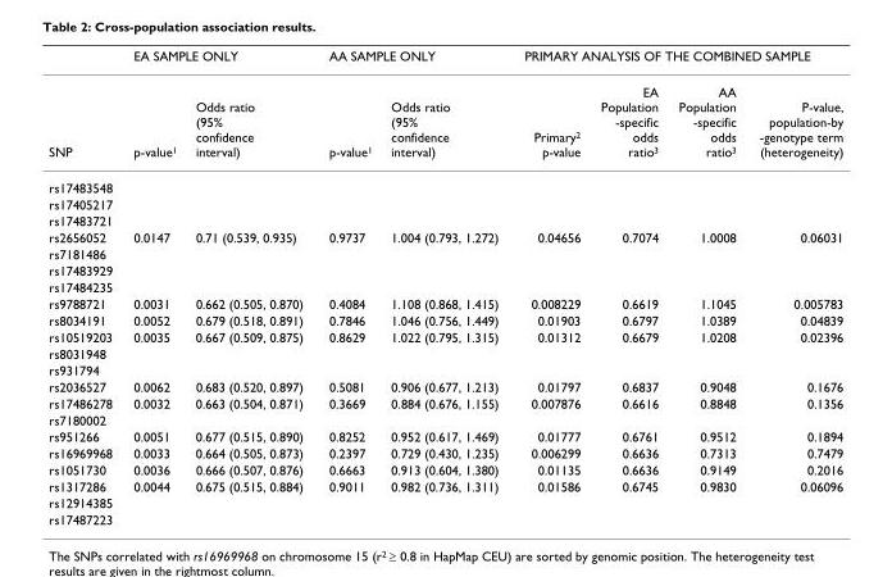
<table><thead><tr><td rowspan="2">SNP</td><td colspan="2">EA SAMPLE ONLY</td><td colspan="2">AA SAMPLE ONLY</td><td colspan="4">PRIMARY ANALYSIS OF THE COMBINED SAMPLE</td></tr><tr><td>p-value<sup>1</sup></td><td>Odds ratio (95% confidence interval)</td><td>p-value<sup>1</sup></td><td>Odds ratio (95% confidence interval)</td><td>Primary<sup>2</sup> p-value</td><td>EA Population -specific odds ratio<sup>3</sup></td><td>AA Population -specific odds ratio<sup>3</sup></td><td>P-value, population-by -genotype term (heterogeneity)</td></tr></thead><tbody><tr><td colspan="9">rs17483548</td></tr><tr><td colspan="9">rs17405217</td></tr><tr><td colspan="9">rs17483721</td></tr><tr><td>rs2656052</td><td>0.0147</td><td>0.71 (0.539, 0.935)</td><td>0.9737</td><td>1.004 (0.793, 1.272)</td><td>0.04656</td><td>0.7074</td><td>1.0008</td><td>0.06031</td></tr><tr><td colspan="9">rs7181486</td></tr><tr><td colspan="9">rs17483929</td></tr><tr><td colspan="9">rs17484235</td></tr><tr><td>rs9788721</td><td>0.0031</td><td>0.662 (0.505, 0.870)</td><td>0.4084</td><td>1.108 (0.868, 1.415)</td><td>0.008229</td><td>0.6619</td><td>1.1045</td><td>0.005783</td></tr><tr><td>rs8034191</td><td>0.0052</td><td>0.679 (0.518, 0.891)</td><td>0.7846</td><td>1.046 (0.756, 1.449)</td><td>0.01903</td><td>0.6797</td><td>1.0389</td><td>0.04839</td></tr><tr><td>rs10519203</td><td>0.0035</td><td>0.667 (0.509, 0.875)</td><td>0.8629</td><td>1.022 (0.795, 1.315)</td><td>0.01312</td><td>0.6679</td><td>1.0208</td><td>0.02396</td></tr><tr><td colspan="9">rs8031948</td></tr><tr><td colspan="9">rs931794</td></tr><tr><td>rs2036527</td><td>0.0062</td><td>0.683 (0.520, 0.897)</td><td>0.5081</td><td>0.906 (0.677, 1.213)</td><td>0.01797</td><td>0.6837</td><td>0.9048</td><td>0.1676</td></tr><tr><td>rs17486278</td><td>0.0032</td><td>0.663 (0.504, 0.871)</td><td>0.3669</td><td>0.884 (0.676, 1.155)</td><td>0.007876</td><td>0.6616</td><td>0.8848</td><td>0.1356</td></tr><tr><td colspan="9">rs7180002</td></tr><tr><td>rs951266</td><td>0.0051</td><td>0.677 (0.515, 0.890)</td><td>0.8252</td><td>0.952 (0.617, 1.469)</td><td>0.01777</td><td>0.6761</td><td>0.9512</td><td>0.1894</td></tr><tr><td>rs16969968</td><td>0.0033</td><td>0.664 (0.505, 0.873)</td><td>0.2397</td><td>0.729 (0.430, 1.235)</td><td>0.006299</td><td>0.6636</td><td>0.7313</td><td>0.7479</td></tr><tr><td>rs1051730</td><td>0.0036</td><td>0.666 (0.507, 0.876)</td><td>0.6663</td><td>0.913 (0.604, 1.380)</td><td>0.01135</td><td>0.6636</td><td>0.9149</td><td>0.2016</td></tr><tr><td>rs1317286</td><td>0.0044</td><td>0.675 (0.515, 0.884)</td><td>0.9011</td><td>0.982 (0.736, 1.311)</td><td>0.01586</td><td>0.6745</td><td>0.9830</td><td>0.06096</td></tr><tr><td colspan="9">rs12914385</td></tr><tr><td>rs17487223</td><td></td><td></td><td></td><td></td><td></td><td></td><td></td><td></td></tr></tbody></table>